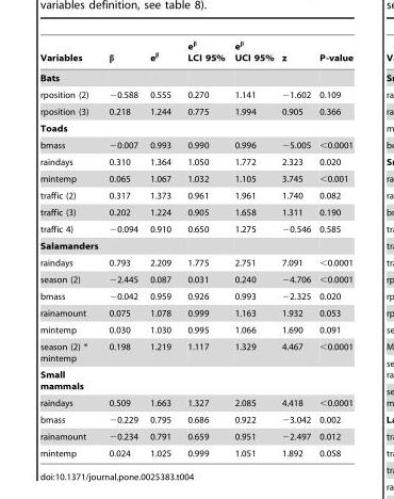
<table><thead><tr><td>Variables</td><td>β</td><td>e<sup>β</sup></td><td>e<sup>β</sup> LCI 95%</td><td>e<sup>β</sup> UCI 95%</td><td>z</td><td>P-value</td></tr></thead><tbody><tr><td colspan="7">Bats</td></tr><tr><td>rposition (2)</td><td>−0.588</td><td>0.555</td><td>0.270</td><td>1.141</td><td>−1.602</td><td>0.109</td></tr><tr><td>rposition (3)</td><td>0.218</td><td>1.244</td><td>0.775</td><td>1.994</td><td>0.905</td><td>0.366</td></tr><tr><td colspan="7">Toads</td></tr><tr><td>bmass</td><td>−0.007</td><td>0.993</td><td>0.990</td><td>0.996</td><td>−5.005</td><td>&lt;0.0001</td></tr><tr><td>raindays</td><td>0.310</td><td>1.364</td><td>1.050</td><td>1.772</td><td>2.323</td><td>0.020</td></tr><tr><td>mintemp</td><td>0.065</td><td>1.067</td><td>1.032</td><td>1.105</td><td>3.745</td><td>&lt;0.001</td></tr><tr><td>traffic (2)</td><td>0.317</td><td>1.373</td><td>0.961</td><td>1.961</td><td>1.740</td><td>0.082</td></tr><tr><td>traffic (3)</td><td>0.202</td><td>1.224</td><td>0.905</td><td>1.658</td><td>1.311</td><td>0.190</td></tr><tr><td>traffic 4)</td><td>−0.094</td><td>0.910</td><td>0.650</td><td>1.275</td><td>−0.546</td><td>0.585</td></tr><tr><td colspan="7">Salamanders</td></tr><tr><td>raindays</td><td>0.793</td><td>2.209</td><td>1.775</td><td>2.751</td><td>7.091</td><td>&lt;0.0001</td></tr><tr><td>season (2)</td><td>−2.445</td><td>0.087</td><td>0.031</td><td>0.240</td><td>−4.706</td><td>&lt;0.0001</td></tr><tr><td>bmass</td><td>−0.042</td><td>0.959</td><td>0.926</td><td>0.993</td><td>−2.325</td><td>0.020</td></tr><tr><td>rainamount</td><td>0.075</td><td>1.078</td><td>0.999</td><td>1.163</td><td>1.932</td><td>0.053</td></tr><tr><td>mintemp</td><td>0.030</td><td>1.030</td><td>0.995</td><td>1.066</td><td>1.690</td><td>0.091</td></tr><tr><td>season (2) * mintemp</td><td>0.198</td><td>1.219</td><td>1.117</td><td>1.329</td><td>4.467</td><td>&lt;0.0001</td></tr><tr><td colspan="7">Small mammals</td></tr><tr><td>raindays</td><td>0.509</td><td>1.663</td><td>1.327</td><td>2.085</td><td>4.418</td><td>&lt;0.0001</td></tr><tr><td>bmass</td><td>−0.229</td><td>0.795</td><td>0.686</td><td>0.922</td><td>−3.042</td><td>0.002</td></tr><tr><td>rainamount</td><td>−0.234</td><td>0.791</td><td>0.659</td><td>0.951</td><td>−2.497</td><td>0.012</td></tr><tr><td>mintemp</td><td>0.024</td><td>1.025</td><td>0.999</td><td>1.051</td><td>1.892</td><td>0.058</td></tr></tbody></table>